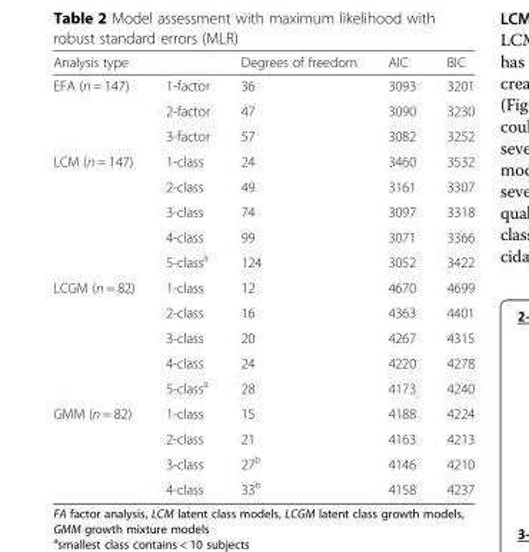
<table><thead><tr><td>Analysis type</td><td></td><td>Degrees of freedom</td><td>AIC</td><td>BIC</td></tr></thead><tbody><tr><td rowspan="3">EFA (n = 147)</td><td>1-factor</td><td>36</td><td>3093</td><td>3201</td></tr><tr><td>2-factor</td><td>47</td><td>3090</td><td>3230</td></tr><tr><td>3-factor</td><td>57</td><td>3082</td><td>3252</td></tr><tr><td rowspan="5">LCM (n = 147)</td><td>1-class</td><td>24</td><td>3460</td><td>3532</td></tr><tr><td>2-class</td><td>49</td><td>3161</td><td>3307</td></tr><tr><td>3-class</td><td>74</td><td>3097</td><td>3318</td></tr><tr><td>4-class</td><td>99</td><td>3071</td><td>3366</td></tr><tr><td>5-class<sup>a</sup></td><td>124</td><td>3052</td><td>3422</td></tr><tr><td rowspan="5">LCGM (n = 82)</td><td>1-class</td><td>12</td><td>4670</td><td>4699</td></tr><tr><td>2-class</td><td>16</td><td>4363</td><td>4401</td></tr><tr><td>3-class</td><td>20</td><td>4267</td><td>4315</td></tr><tr><td>4-class</td><td>24</td><td>4220</td><td>4278</td></tr><tr><td>5-class<sup>a</sup></td><td>28</td><td>4173</td><td>4240</td></tr><tr><td rowspan="4">GMM (n = 82)</td><td>1-class</td><td>15</td><td>4188</td><td>4224</td></tr><tr><td>2-class</td><td>21</td><td>4163</td><td>4213</td></tr><tr><td>3-class</td><td>27<sup>b</sup></td><td>4146</td><td>4210</td></tr><tr><td>4-class</td><td>33<sup>b</sup></td><td>4158</td><td>4237</td></tr></tbody></table>